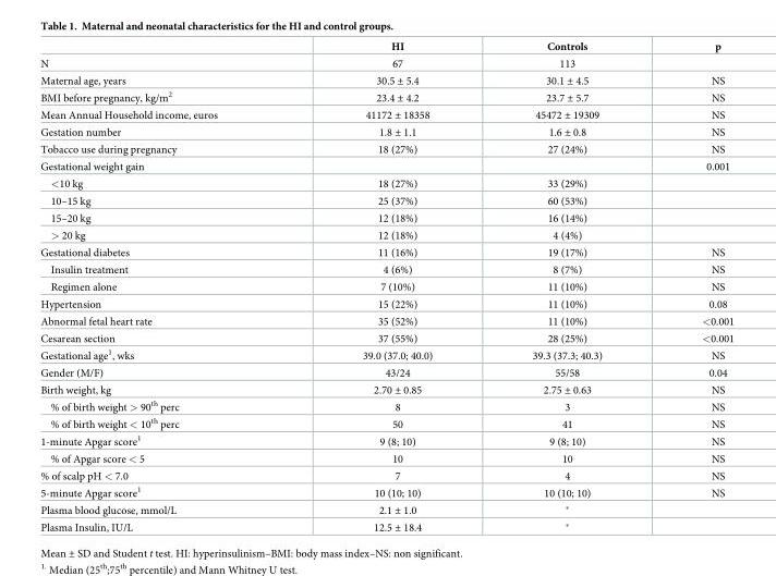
<table><thead><tr><td></td><td>HI</td><td>Controls</td><td>p</td></tr></thead><tbody><tr><td>N</td><td>67</td><td>113</td><td></td></tr><tr><td>Maternal age, years</td><td>30.5 ± 5.4</td><td>30.1 ± 4.5</td><td>NS</td></tr><tr><td>BMI before pregnancy, kg/m<sup>2</sup></td><td>23.4 ± 4.2</td><td>23.7 ± 5.7</td><td>NS</td></tr><tr><td>Mean Annual Household income, euros</td><td>41172 ± 18358</td><td>45472 ± 19309</td><td>NS</td></tr><tr><td>Gestation number</td><td>1.8 ± 1.1</td><td>1.6 ± 0.8</td><td>NS</td></tr><tr><td>Tobacco use during pregnancy</td><td>18 (27%)</td><td>27 (24%)</td><td>NS</td></tr><tr><td>Gestational weight gain</td><td></td><td></td><td>0.001</td></tr><tr><td>&lt;10 kg</td><td>18 (27%)</td><td>33 (29%)</td><td></td></tr><tr><td>10–15 kg</td><td>25 (37%)</td><td>60 (53%)</td><td></td></tr><tr><td>15–20 kg</td><td>12 (18%)</td><td>16 (14%)</td><td></td></tr><tr><td>&gt; 20 kg</td><td>12 (18%)</td><td>4 (4%)</td><td></td></tr><tr><td>Gestational diabetes</td><td>11 (16%)</td><td>19 (17%)</td><td>NS</td></tr><tr><td>Insulin treatment</td><td>4 (6%)</td><td>8 (7%)</td><td>NS</td></tr><tr><td>Regimen alone</td><td>7 (10%)</td><td>11 (10%)</td><td>NS</td></tr><tr><td>Hypertension</td><td>15 (22%)</td><td>11 (10%)</td><td>0.08</td></tr><tr><td>Abnormal fetal heart rate</td><td>35 (52%)</td><td>11 (10%)</td><td>&lt;0.001</td></tr><tr><td>Cesarean section</td><td>37 (55%)</td><td>28 (25%)</td><td>&lt;0.001</td></tr><tr><td>Gestational age<sup>1</sup>, wks</td><td>39.0 (37.0; 40.0)</td><td>39.3 (37.3; 40.3)</td><td>NS</td></tr><tr><td>Gender (M/F)</td><td>43/24</td><td>55/58</td><td>0.04</td></tr><tr><td>Birth weight, kg</td><td>2.70 ± 0.85</td><td>2.75 ± 0.63</td><td>NS</td></tr><tr><td>% of birth weight &gt; 90<sup>th</sup> perc</td><td>8</td><td>3</td><td>NS</td></tr><tr><td>% of birth weight &lt; 10<sup>th</sup> perc</td><td>50</td><td>41</td><td>NS</td></tr><tr><td>1-minute Apgar score<sup>1</sup></td><td>9 (8; 10)</td><td>9 (8; 10)</td><td>NS</td></tr><tr><td>% of Apgar score &lt; 5</td><td>10</td><td>10</td><td>NS</td></tr><tr><td>% of scalp pH &lt; 7.0</td><td>7</td><td>4</td><td>NS</td></tr><tr><td>5-minute Apgar score<sup>1</sup></td><td>10 (10; 10)</td><td>10 (10; 10)</td><td>NS</td></tr><tr><td>Plasma blood glucose, mmol/L</td><td>2.1 ± 1.0</td><td>*</td><td></td></tr><tr><td>Plasma Insulin, IU/L</td><td>12.5 ± 18.4</td><td>*</td><td></td></tr></tbody></table>